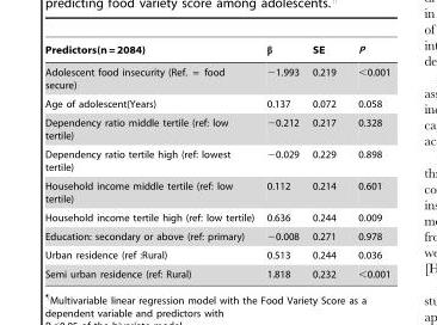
<table><thead><tr><td>Predictors(n = 2084)</td><td>β</td><td>SE</td><td>P</td></tr></thead><tbody><tr><td>Adolescent food insecurity (Ref. = food secure)</td><td>−1.993</td><td>0.219</td><td>&lt;0.001</td></tr><tr><td>Age of adolescent(Years)</td><td>0.137</td><td>0.072</td><td>0.058</td></tr><tr><td>Dependency ratio middle tertile (ref: low tertile)</td><td>−0.212</td><td>0.217</td><td>0.328</td></tr><tr><td>Dependency ratio tertile high (ref: lowest tertile)</td><td>−0.029</td><td>0.229</td><td>0.898</td></tr><tr><td>Household income middle tertile (ref: low tertile)</td><td>0.112</td><td>0.214</td><td>0.601</td></tr><tr><td>Household income tertile high (ref: low tertile)</td><td>0.636</td><td>0.244</td><td>0.009</td></tr><tr><td>Education: secondary or above (ref: primary)</td><td>−0.008</td><td>0.271</td><td>0.978</td></tr><tr><td>Urban residence (ref :Rural)</td><td>0.513</td><td>0.244</td><td>0.036</td></tr><tr><td>Semi urban residence (ref: Rural)</td><td>1.818</td><td>0.232</td><td>&lt;0.001</td></tr></tbody></table>